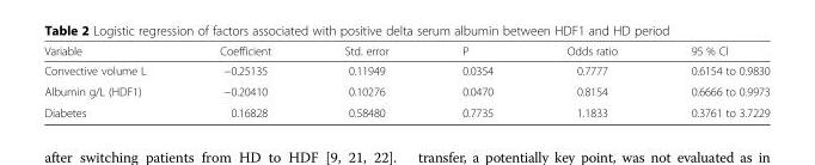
<table><thead><tr><td>Variable</td><td>Coefficient</td><td>Std. error</td><td>P</td><td>Odds ratio</td><td>95 % CI</td></tr></thead><tbody><tr><td>Convective volume L</td><td>−0.25135</td><td>0.11949</td><td>0.0354</td><td>0.7777</td><td>0.6154 to 0.9830</td></tr><tr><td>Albumin g/L (HDF1)</td><td>−0.20410</td><td>0.10276</td><td>0.0470</td><td>0.8154</td><td>0.6666 to 0.9973</td></tr><tr><td>Diabetes</td><td>0.16828</td><td>0.58480</td><td>0.7735</td><td>1.1833</td><td>0.3761 to 3.7229</td></tr></tbody></table>